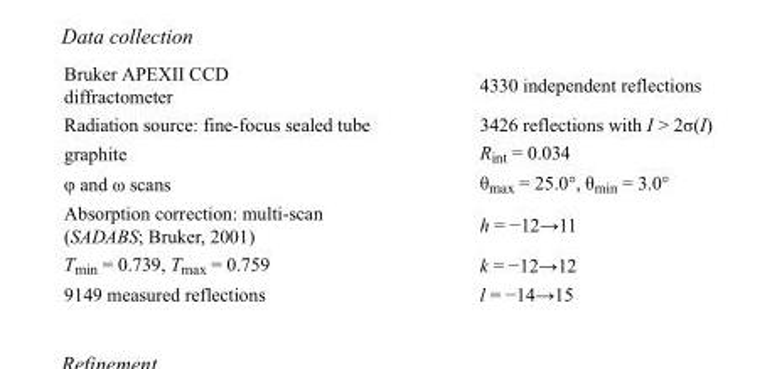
<table><tbody><tr><td>Bruker APEXII CCD diffractometer</td><td>4330 independent reflections</td></tr><tr><td>Radiation source: fine-focus sealed tube</td><td>3426 reflections with I &gt; 2σ(I)</td></tr><tr><td>graphite</td><td>R<sub>int</sub> = 0.034</td></tr><tr><td>φ and ω scans</td><td>θ<sub>max</sub> = 25.0°, θ<sub>min</sub> = 3.0°</td></tr><tr><td>Absorption correction: multi-scan (SADABS; Bruker, 2001)</td><td>h = −12→11</td></tr><tr><td>T<sub>min</sub> = 0.739, T<sub>max</sub> = 0.759</td><td>k = −12→12</td></tr><tr><td>9149 measured reflections</td><td>l = −14→15</td></tr></tbody></table>